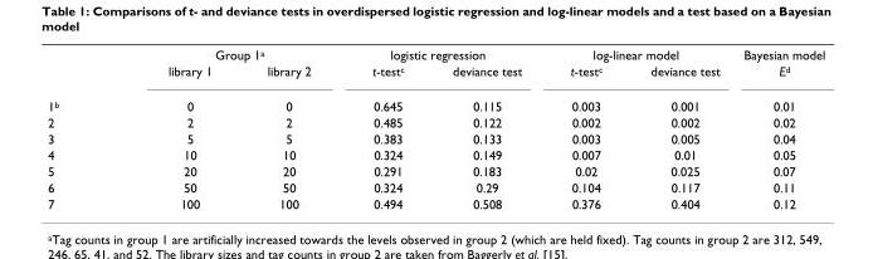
<table><thead><tr><td rowspan="2"></td><td colspan="2">Group 1<sup>a</sup></td><td colspan="2">logistic regression</td><td colspan="2">log-linear model</td><td rowspan="2">Bayesian model E<sup>d</sup></td></tr><tr><td>library 1</td><td>library 2</td><td>t-test<sup>c</sup></td><td>deviance test</td><td>t-test<sup>c</sup></td><td>deviance test</td></tr></thead><tbody><tr><td>1<sup>b</sup></td><td>0</td><td>0</td><td>0.645</td><td>0.115</td><td>0.003</td><td>0.001</td><td>0.01</td></tr><tr><td>2</td><td>2</td><td>2</td><td>0.485</td><td>0.122</td><td>0.002</td><td>0.002</td><td>0.02</td></tr><tr><td>3</td><td>5</td><td>5</td><td>0.383</td><td>0.133</td><td>0.003</td><td>0.005</td><td>0.04</td></tr><tr><td>4</td><td>10</td><td>10</td><td>0.324</td><td>0.149</td><td>0.007</td><td>0.01</td><td>0.05</td></tr><tr><td>5</td><td>20</td><td>20</td><td>0.291</td><td>0.183</td><td>0.02</td><td>0.025</td><td>0.07</td></tr><tr><td>6</td><td>50</td><td>50</td><td>0.324</td><td>0.29</td><td>0.104</td><td>0.117</td><td>0.11</td></tr><tr><td>7</td><td>100</td><td>100</td><td>0.494</td><td>0.508</td><td>0.376</td><td>0.404</td><td>0.12</td></tr></tbody></table>